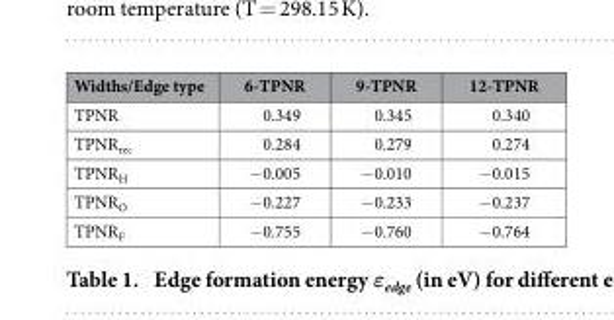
<table><thead><tr><td>Widths/Edge type</td><td>6-TPNR</td><td>9-TPNR</td><td>12-TPNR</td></tr></thead><tbody><tr><td>TPNR</td><td>0.349</td><td>0.345</td><td>0.340</td></tr><tr><td>TPNR<sub>rec</sub></td><td>0.284</td><td>0.279</td><td>0.274</td></tr><tr><td>TPNR<sub>H</sub></td><td>− 0.005</td><td>− 0.010</td><td>− 0.015</td></tr><tr><td>TPNR<sub>O</sub></td><td>− 0.227</td><td>− 0.233</td><td>− 0.237</td></tr><tr><td>TPNR<sub>F</sub></td><td>− 0.755</td><td>− 0.760</td><td>− 0.764</td></tr></tbody></table>